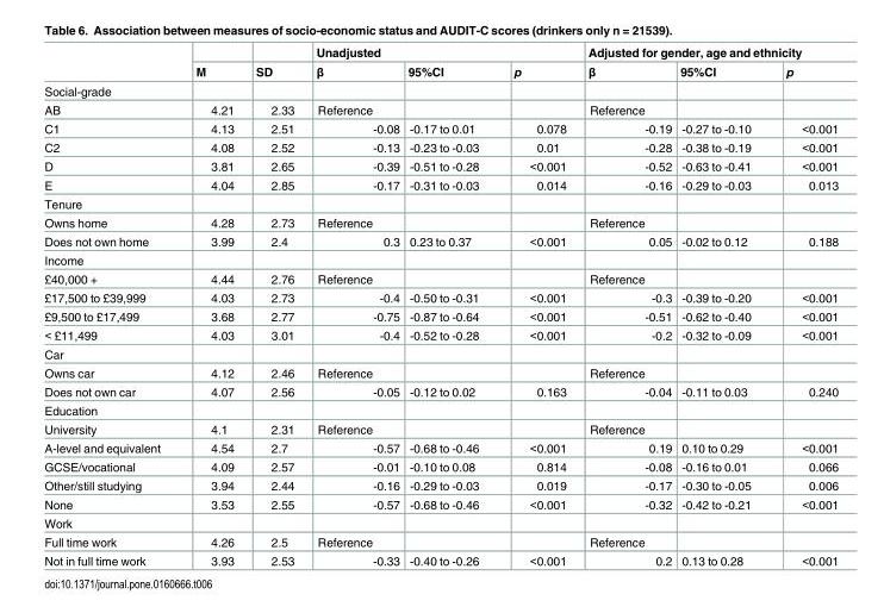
<table><thead><tr><td rowspan="2"></td><td rowspan="2">M</td><td rowspan="2">SD</td><td colspan="3">Unadjusted</td><td colspan="3">Adjusted for gender, age and ethnicity</td></tr><tr><td>β</td><td>95%CI</td><td>p</td><td>β</td><td>95%CI</td><td>p</td></tr></thead><tbody><tr><td colspan="9">Social-grade</td></tr><tr><td>AB</td><td>4.21</td><td>2.33</td><td>Reference</td><td></td><td></td><td>Reference</td><td></td><td></td></tr><tr><td>C1</td><td>4.13</td><td>2.51</td><td>-0.08</td><td>-0.17 to 0.01</td><td>0.078</td><td>-0.19</td><td>-0.27 to -0.10</td><td>&lt;0.001</td></tr><tr><td>C2</td><td>4.08</td><td>2.52</td><td>-0.13</td><td>-0.23 to -0.03</td><td>0.01</td><td>-0.28</td><td>-0.38 to -0.19</td><td>&lt;0.001</td></tr><tr><td>D</td><td>3.81</td><td>2.65</td><td>-0.39</td><td>-0.51 to -0.28</td><td>&lt;0.001</td><td>-0.52</td><td>-0.63 to -0.41</td><td>&lt;0.001</td></tr><tr><td>E</td><td>4.04</td><td>2.85</td><td>-0.17</td><td>-0.31 to -0.03</td><td>0.014</td><td>-0.16</td><td>-0.29 to -0.03</td><td>0.013</td></tr><tr><td colspan="9">Tenure</td></tr><tr><td>Owns home</td><td>4.28</td><td>2.73</td><td>Reference</td><td></td><td></td><td>Reference</td><td></td><td></td></tr><tr><td>Does not own home</td><td>3.99</td><td>2.4</td><td>0.3</td><td>0.23 to 0.37</td><td>&lt;0.001</td><td>0.05</td><td>-0.02 to 0.12</td><td>0.188</td></tr><tr><td colspan="9">Income</td></tr><tr><td>£40,000 +</td><td>4.44</td><td>2.76</td><td>Reference</td><td></td><td></td><td>Reference</td><td></td><td></td></tr><tr><td>£17,500 to £39,999</td><td>4.03</td><td>2.73</td><td>-0.4</td><td>-0.50 to -0.31</td><td>&lt;0.001</td><td>-0.3</td><td>-0.39 to -0.20</td><td>&lt;0.001</td></tr><tr><td>£9,500 to £17,499</td><td>3.68</td><td>2.77</td><td>-0.75</td><td>-0.87 to -0.64</td><td>&lt;0.001</td><td>-0.51</td><td>-0.62 to -0.40</td><td>&lt;0.001</td></tr><tr><td>&lt; £11,499</td><td>4.03</td><td>3.01</td><td>-0.4</td><td>-0.52 to -0.28</td><td>&lt;0.001</td><td>-0.2</td><td>-0.32 to -0.09</td><td>&lt;0.001</td></tr><tr><td colspan="9">Car</td></tr><tr><td>Owns car</td><td>4.12</td><td>2.46</td><td>Reference</td><td></td><td></td><td>Reference</td><td></td><td></td></tr><tr><td>Does not own car</td><td>4.07</td><td>2.56</td><td>-0.05</td><td>-0.12 to 0.02</td><td>0.163</td><td>-0.04</td><td>-0.11 to 0.03</td><td>0.240</td></tr><tr><td colspan="9">Education</td></tr><tr><td>University</td><td>4.1</td><td>2.31</td><td>Reference</td><td></td><td></td><td>Reference</td><td></td><td></td></tr><tr><td>A-level and equivalent</td><td>4.54</td><td>2.7</td><td>-0.57</td><td>-0.68 to -0.46</td><td>&lt;0.001</td><td>0.19</td><td>0.10 to 0.29</td><td>&lt;0.001</td></tr><tr><td>GCSE/vocational</td><td>4.09</td><td>2.57</td><td>-0.01</td><td>-0.10 to 0.08</td><td>0.814</td><td>-0.08</td><td>-0.16 to 0.01</td><td>0.066</td></tr><tr><td>Other/still studying</td><td>3.94</td><td>2.44</td><td>-0.16</td><td>-0.29 to -0.03</td><td>0.019</td><td>-0.17</td><td>-0.30 to -0.05</td><td>0.006</td></tr><tr><td>None</td><td>3.53</td><td>2.55</td><td>-0.57</td><td>-0.68 to -0.46</td><td>&lt;0.001</td><td>-0.32</td><td>-0.42 to -0.21</td><td>&lt;0.001</td></tr><tr><td colspan="9">Work</td></tr><tr><td>Full time work</td><td>4.26</td><td>2.5</td><td>Reference</td><td></td><td></td><td>Reference</td><td></td><td></td></tr><tr><td>Not in full time work</td><td>3.93</td><td>2.53</td><td>-0.33</td><td>-0.40 to -0.26</td><td>&lt;0.001</td><td>0.2</td><td>0.13 to 0.28</td><td>&lt;0.001</td></tr></tbody></table>